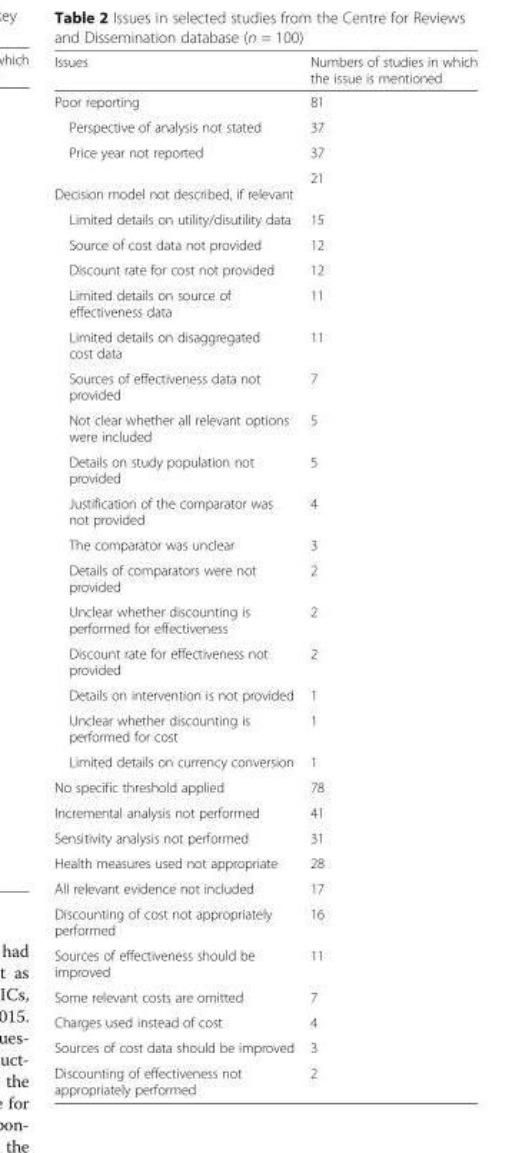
<table><thead><tr><td>Issues</td><td>Numbers of studies in which the issue is mentioned</td></tr></thead><tbody><tr><td>Poor reporting</td><td>81</td></tr><tr><td>Perspective of analysis not stated</td><td>37</td></tr><tr><td>Price year not reported</td><td>37</td></tr><tr><td>Decision model not described, if relevant</td><td>21</td></tr><tr><td>Limited details on utility/disutility data</td><td>15</td></tr><tr><td>Source of cost data not provided</td><td>12</td></tr><tr><td>Discount rate for cost not provided</td><td>12</td></tr><tr><td>Limited details on source of effectiveness data</td><td>11</td></tr><tr><td>Limited details on disaggregated cost data</td><td>11</td></tr><tr><td>Sources of effectiveness data not provided</td><td>7</td></tr><tr><td>Not clear whether all relevant options were included</td><td>5</td></tr><tr><td>Details on study population not provided</td><td>5</td></tr><tr><td>Justification of the comparator was not provided</td><td>4</td></tr><tr><td>The comparator was unclear</td><td>3</td></tr><tr><td>Details of comparators were not provided</td><td>2</td></tr><tr><td>Unclear whether discounting is performed for effectiveness</td><td>2</td></tr><tr><td>Discount rate for effectiveness not provided</td><td>2</td></tr><tr><td>Details on intervention is not provided</td><td>1</td></tr><tr><td>Unclear whether discounting is performed for cost</td><td>1</td></tr><tr><td>Limited details on currency conversion</td><td>1</td></tr><tr><td>No specific threshold applied</td><td>78</td></tr><tr><td>Incremental analysis not performed</td><td>41</td></tr><tr><td>Sensitivity analysis not performed</td><td>31</td></tr><tr><td>Health measures used not appropriate</td><td>28</td></tr><tr><td>All relevant evidence not included</td><td>17</td></tr><tr><td>Discounting of cost not appropriately performed</td><td>16</td></tr><tr><td>Sources of effectiveness should be improved</td><td>11</td></tr><tr><td>Some relevant costs are omitted</td><td>7</td></tr><tr><td>Charges used instead of cost</td><td>4</td></tr><tr><td>Sources of cost data should be improved</td><td>3</td></tr><tr><td>Discounting of effectiveness not appropriately performed</td><td>2</td></tr></tbody></table>